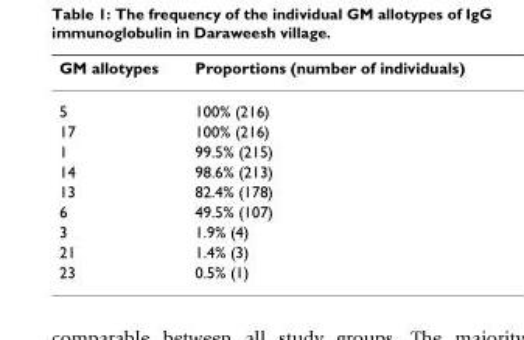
<table><thead><tr><td>GM allotypes</td><td>Proportions (number of individuals)</td></tr></thead><tbody><tr><td>5</td><td>100% (216)</td></tr><tr><td>17</td><td>100% (216)</td></tr><tr><td>1</td><td>99.5% (215)</td></tr><tr><td>14</td><td>98.6% (213)</td></tr><tr><td>13</td><td>82.4% (178)</td></tr><tr><td>6</td><td>49.5% (107)</td></tr><tr><td>3</td><td>1.9% (4)</td></tr><tr><td>21</td><td>1.4% (3)</td></tr><tr><td>23</td><td>0.5% (1)</td></tr></tbody></table>